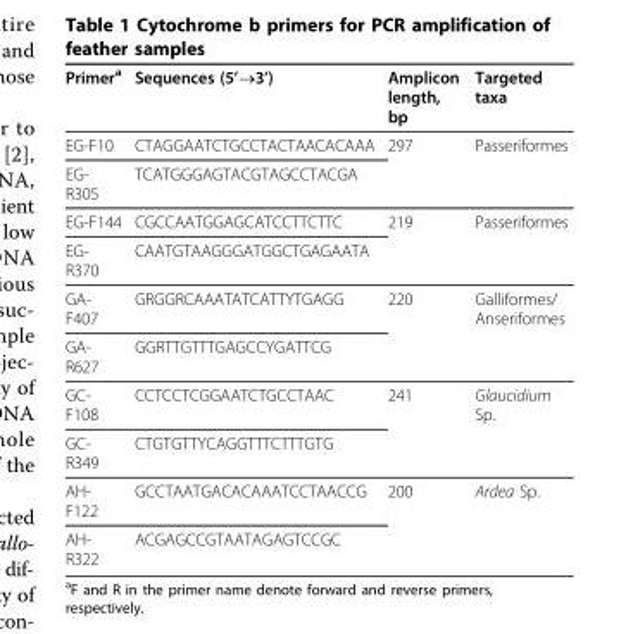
<table><thead><tr><td>Primer<sup>a</sup></td><td>Sequences (5’→3’)</td><td>Amplicon length, bp</td><td>Targeted taxa</td></tr></thead><tbody><tr><td>EG-F10</td><td>CTAGGAATCTGCCTACTAACACAAA</td><td>297</td><td>Passeriformes</td></tr><tr><td>EG- R305</td><td>TCATGGGAGTACGTAGCCTACGA</td><td></td><td></td></tr><tr><td>EG-F144</td><td>CGCCAATGGAGCATCCTTCTTC</td><td>219</td><td>Passeriformes</td></tr><tr><td>EG- R370</td><td>CAATGTAAGGGATGGCTGAGAATA</td><td></td><td></td></tr><tr><td>GA- F407</td><td>GRGGRCAAATATCATTYTGAGG</td><td>220</td><td>Galliformes/ Anseriformes</td></tr><tr><td>GA- R627</td><td>GGRTTGTTTGAGCCYGATTCG</td><td></td><td></td></tr><tr><td>GC- F108</td><td>CCTCCTCGGAATCTGCCTAAC</td><td>241</td><td>Glaucidium Sp.</td></tr><tr><td>GC- R349</td><td>CTGTGTTYCAGGTTTCTTTGTG</td><td></td><td></td></tr><tr><td>AH- F122</td><td>GCCTAATGACACAAATCCTAACCG</td><td>200</td><td>Ardea Sp.</td></tr><tr><td>AH- R322</td><td>ACGAGCCGTAATAGAGTCCGC</td><td></td><td></td></tr></tbody></table>